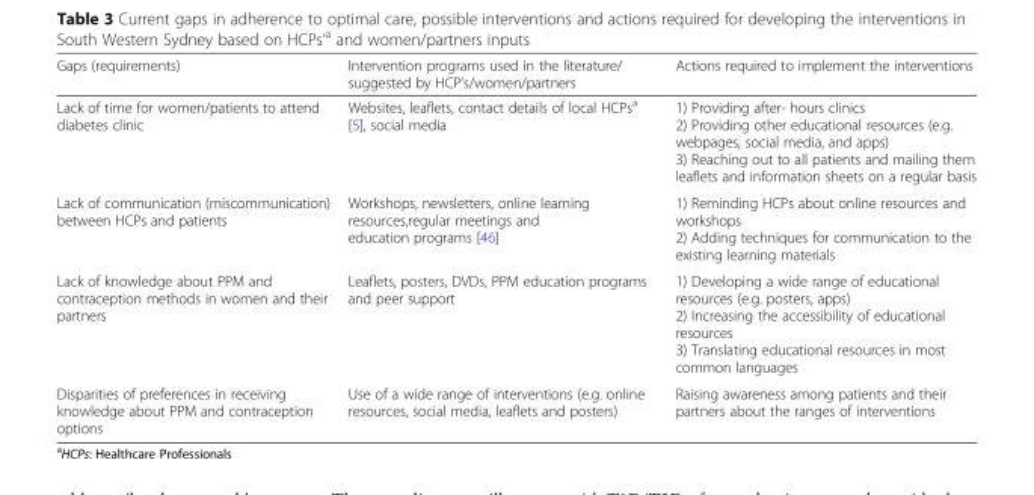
<table><thead><tr><td>Gaps (requirements)</td><td>Intervention programs used in the literature/ suggested by HCP’s/women/partners</td><td>Actions required to implement the interventions</td></tr></thead><tbody><tr><td>Lack of time for women/patients to attend diabetes clinic</td><td>Websites, leaflets, contact details of local HCPs<sup>a</sup> [5], social media</td><td>1) Providing after- hours clinics 2) Providing other educational resources (e.g. webpages, social media, and apps) 3) Reaching out to all patients and mailing them leaflets and information sheets on a regular basis</td></tr><tr><td>Lack of communication (miscommunication) between HCPs and patients</td><td>Workshops, newsletters, online learning resources,regular meetings and education programs [46]</td><td>1) Reminding HCPs about online resources and workshops 2) Adding techniques for communication to the existing learning materials</td></tr><tr><td>Lack of knowledge about PPM and contraception methods in women and their partners</td><td>Leaflets, posters, DVDs, PPM education programs and peer support</td><td>1) Developing a wide range of educational resources (e.g. posters, apps) 2) Increasing the accessibility of educational resources 3) Translating educational resources in most common languages</td></tr><tr><td>Disparities of preferences in receiving knowledge about PPM and contraception options</td><td>Use of a wide range of interventions (e.g. online resources, social media, leaflets and posters)</td><td>Raising awareness among patients and their partners about the ranges of interventions</td></tr></tbody></table>